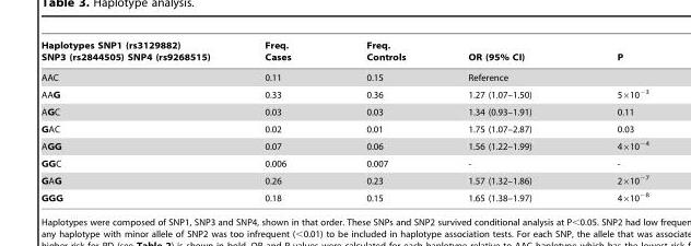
<table><thead><tr><td>Haplotypes SNP1 (rs3129882) SNP3 (rs2844505) SNP4 (rs9268515)</td><td>Freq. Cases</td><td>Freq. Controls</td><td>OR (95% CI)</td><td>P</td></tr></thead><tbody><tr><td>AAC</td><td>0.11</td><td>0.15</td><td colspan="2">Reference</td></tr><tr><td>AAG</td><td>0.33</td><td>0.36</td><td>1.27 (1.07–1.50)</td><td>5×10<sup>−3</sup></td></tr><tr><td>AGC</td><td>0.03</td><td>0.03</td><td>1.34 (0.93–1.91)</td><td>0.11</td></tr><tr><td>GAC</td><td>0.02</td><td>0.01</td><td>1.75 (1.07–2.87)</td><td>0.03</td></tr><tr><td>AGG</td><td>0.07</td><td>0.06</td><td>1.56 (1.22–1.99)</td><td>4×10<sup>−4</sup></td></tr><tr><td>GGC</td><td>0.006</td><td>0.007</td><td>-</td><td>-</td></tr><tr><td>GAG</td><td>0.26</td><td>0.23</td><td>1.57 (1.32–1.86)</td><td>2×10<sup>−7</sup></td></tr><tr><td>GGG</td><td>0.18</td><td>0.15</td><td>1.65 (1.38–1.97)</td><td>4×10<sup>−8</sup></td></tr></tbody></table>